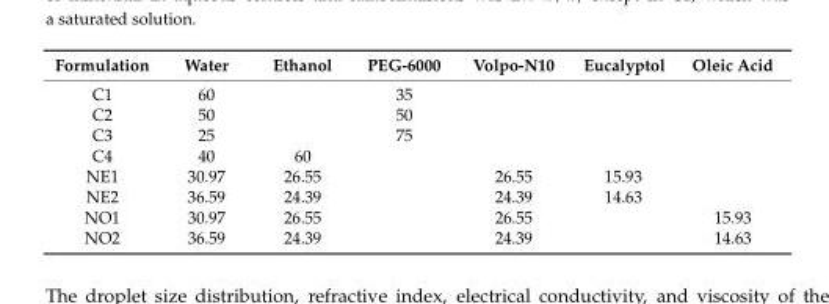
<table><thead><tr><td>Formulation</td><td>Water</td><td>Ethanol</td><td>PEG-6000</td><td>Volpo-N10</td><td>Eucalyptol</td><td>Oleic Acid</td></tr></thead><tbody><tr><td>C1</td><td>60</td><td></td><td>35</td><td></td><td></td><td></td></tr><tr><td>C2</td><td>50</td><td></td><td>50</td><td></td><td></td><td></td></tr><tr><td>C3</td><td>25</td><td></td><td>75</td><td></td><td></td><td></td></tr><tr><td>C4</td><td>40</td><td>60</td><td></td><td></td><td></td><td></td></tr><tr><td>NE1</td><td>30.97</td><td>26.55</td><td></td><td>26.55</td><td>15.93</td><td></td></tr><tr><td>NE2</td><td>36.59</td><td>24.39</td><td></td><td>24.39</td><td>14.63</td><td></td></tr><tr><td>NO1</td><td>30.97</td><td>26.55</td><td></td><td>26.55</td><td></td><td>15.93</td></tr><tr><td>NO2</td><td>36.59</td><td>24.39</td><td></td><td>24.39</td><td></td><td>14.63</td></tr></tbody></table>